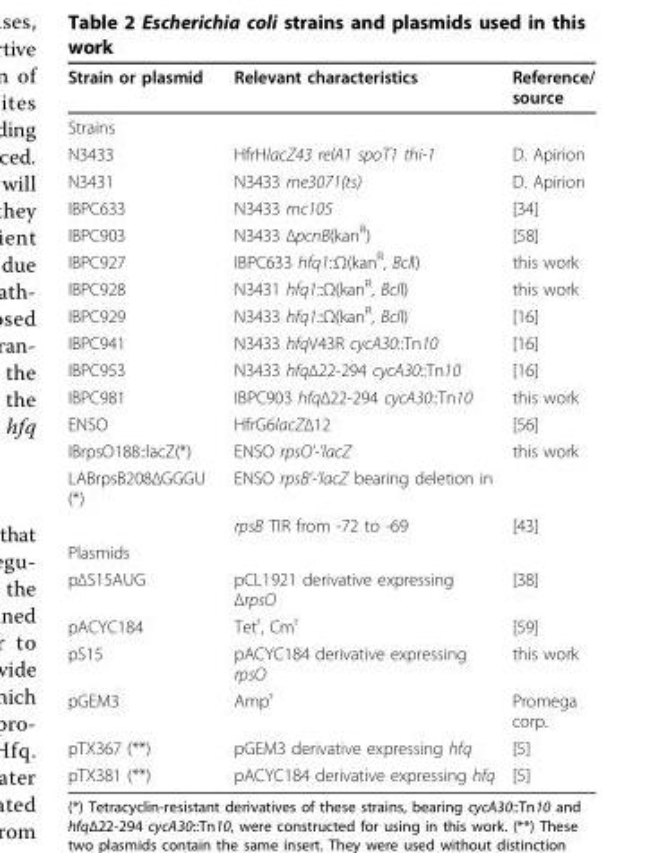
<table><thead><tr><td>Strain or plasmid</td><td>Relevant characteristics</td><td>Reference/ source</td></tr></thead><tbody><tr><td colspan="3">Strains</td></tr><tr><td>N3433</td><td>HfrHlacZ43 relA1 spoT1 thi-1</td><td>D. Apirion</td></tr><tr><td>N3431</td><td>N3433 rne3071(ts)</td><td>D. Apirion</td></tr><tr><td>IBPC633</td><td>N3433 rnc105</td><td>[34]</td></tr><tr><td>IBPC903</td><td>N3433 ΔpcnB(kan<sup>R</sup>)</td><td>[58]</td></tr><tr><td>IBPC927</td><td>IBPC633 hfq1::Ω(kan<sup>R</sup>, BclI)</td><td>this work</td></tr><tr><td>IBPC928</td><td>N3431 hfq1::Ω(kan<sup>R</sup>, BclI)</td><td>this work</td></tr><tr><td>IBPC929</td><td>N3433 hfq1::Ω(kan<sup>R</sup>, BclI)</td><td>[16]</td></tr><tr><td>IBPC941</td><td>N3433 hfqV43R cycA30::Tn10</td><td>[16]</td></tr><tr><td>IBPC953</td><td>N3433 hfqΔ22-294 cycA30::Tn10</td><td>[16]</td></tr><tr><td>IBPC981</td><td>IBPC903 hfqΔ22-294 cycA30::Tn10</td><td>this work</td></tr><tr><td>ENSO</td><td>HfrG6lacZΔ12</td><td>[56]</td></tr><tr><td>IBrpsO188::lacZ(*)</td><td>ENSO rpsO’-’lacZ</td><td>this work</td></tr><tr><td rowspan="2">LABrpsB208ΔGGGU (*)</td><td>ENSO rpsB’-’lacZ bearing deletion in</td><td></td></tr><tr><td>rpsB TIR from -72 to -69</td><td>[43]</td></tr><tr><td colspan="3">Plasmids</td></tr><tr><td>pΔS15AUG</td><td>pCL1921 derivative expressing ΔrpsO</td><td>[38]</td></tr><tr><td>pACYC184</td><td>Tet<sup>r</sup>, Cm<sup>r</sup></td><td>[59]</td></tr><tr><td>pS15</td><td>pACYC184 derivative expressing rpsO</td><td>this work</td></tr><tr><td>pGEM3</td><td>Amp<sup>r</sup></td><td>Promega corp.</td></tr><tr><td>pTX367 (**)</td><td>pGEM3 derivative expressing hfq</td><td>[5]</td></tr><tr><td>pTX381 (**)</td><td>pACYC184 derivative expressing hfq</td><td>[5]</td></tr></tbody></table>